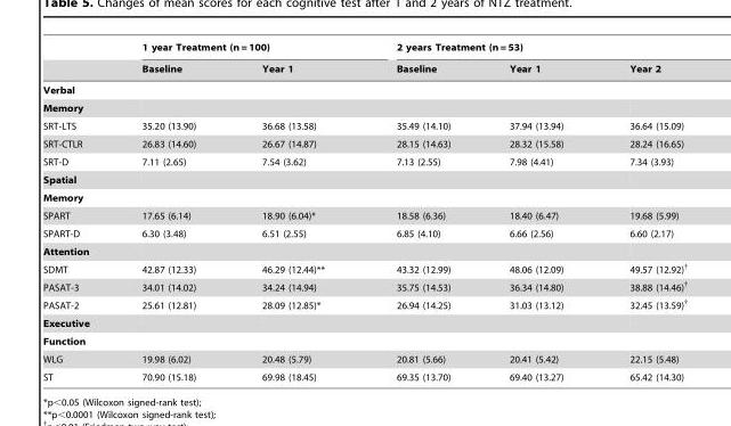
<table><thead><tr><td rowspan="2"></td><td colspan="2">1 year Treatment (n = 100)</td><td colspan="3">2 years Treatment (n = 53)</td></tr><tr><td>Baseline</td><td>Year 1</td><td>Baseline</td><td>Year 1</td><td>Year 2</td></tr></thead><tbody><tr><td colspan="6">Verbal</td></tr><tr><td colspan="6">Memory</td></tr><tr><td>SRT-LTS</td><td>35.20 (13.90)</td><td>36.68 (13.58)</td><td>35.49 (14.10)</td><td>37.94 (13.94)</td><td>36.64 (15.09)</td></tr><tr><td>SRT-CTLR</td><td>26.83 (14.60)</td><td>26.67 (14.87)</td><td>28.15 (14.63)</td><td>28.32 (15.58)</td><td>28.24 (16.65)</td></tr><tr><td>SRT-D</td><td>7.11 (2.65)</td><td>7.54 (3.62)</td><td>7.13 (2.55)</td><td>7.98 (4.41)</td><td>7.34 (3.93)</td></tr><tr><td colspan="6">Spatial</td></tr><tr><td colspan="6">Memory</td></tr><tr><td>SPART</td><td>17.65 (6.14)</td><td>18.90 (6.04)*</td><td>18.58 (6.36)</td><td>18.40 (6.47)</td><td>19.68 (5.99)</td></tr><tr><td>SPART-D</td><td>6.30 (3.48)</td><td>6.51 (2.55)</td><td>6.85 (4.10)</td><td>6.66 (2.56)</td><td>6.60 (2.17)</td></tr><tr><td colspan="6">Attention</td></tr><tr><td>SDMT</td><td>42.87 (12.33)</td><td>46.29 (12.44)**</td><td>43.32 (12.99)</td><td>48.06 (12.09)</td><td>49.57 (12.92)†</td></tr><tr><td>PASAT-3</td><td>34.01 (14.02)</td><td>34.24 (14.94)</td><td>35.75 (14.53)</td><td>36.34 (14.80)</td><td>38.88 (14.46)†</td></tr><tr><td>PASAT-2</td><td>25.61 (12.81)</td><td>28.09 (12.85)*</td><td>26.94 (14.25)</td><td>31.03 (13.12)</td><td>32.45 (13.59)†</td></tr><tr><td colspan="6">Executive</td></tr><tr><td colspan="6">Function</td></tr><tr><td>WLG</td><td>19.98 (6.02)</td><td>20.48 (5.79)</td><td>20.81 (5.66)</td><td>20.41 (5.42)</td><td>22.15 (5.48)</td></tr><tr><td>ST</td><td>70.90 (15.18)</td><td>69.98 (18.45)</td><td>69.35 (13.70)</td><td>69.40 (13.27)</td><td>65.42 (14.30)</td></tr></tbody></table>